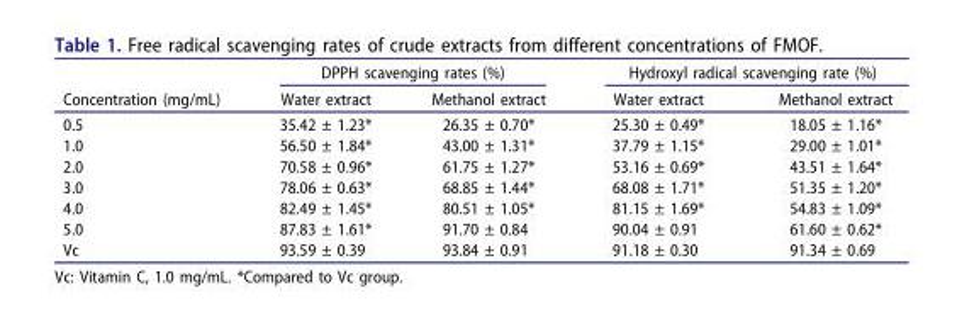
<table><thead><tr><td rowspan="2">Concentration (mg/mL)</td><td colspan="2">DPPH scavenging rates (%)</td><td colspan="2">Hydroxyl radical scavenging rate (%)</td></tr><tr><td>Water extract</td><td>Methanol extract</td><td>Water extract</td><td>Methanol extract</td></tr></thead><tbody><tr><td>0.5</td><td>35.42 ± 1.23*</td><td>26.35 ± 0.70*</td><td>25.30 ± 0.49*</td><td>18.05 ± 1.16*</td></tr><tr><td>1.0</td><td>56.50 ± 1.84*</td><td>43.00 ± 1.31*</td><td>37.79 ± 1.15*</td><td>29.00 ± 1.01*</td></tr><tr><td>2.0</td><td>70.58 ± 0.96*</td><td>61.75 ± 1.27*</td><td>53.16 ± 0.69*</td><td>43.51 ± 1.64*</td></tr><tr><td>3.0</td><td>78.06 ± 0.63*</td><td>68.85 ± 1.44*</td><td>68.08 ± 1.71*</td><td>51.35 ± 1.20*</td></tr><tr><td>4.0</td><td>82.49 ± 1.45*</td><td>80.51 ± 1.05*</td><td>81.15 ± 1.69*</td><td>54.83 ± 1.09*</td></tr><tr><td>5.0</td><td>87.83 ± 1.61*</td><td>91.70 ± 0.84</td><td>90.04 ± 0.91</td><td>61.60 ± 0.62*</td></tr><tr><td>Vc</td><td>93.59 ± 0.39</td><td>93.84 ± 0.91</td><td>91.18 ± 0.30</td><td>91.34 ± 0.69</td></tr></tbody></table>